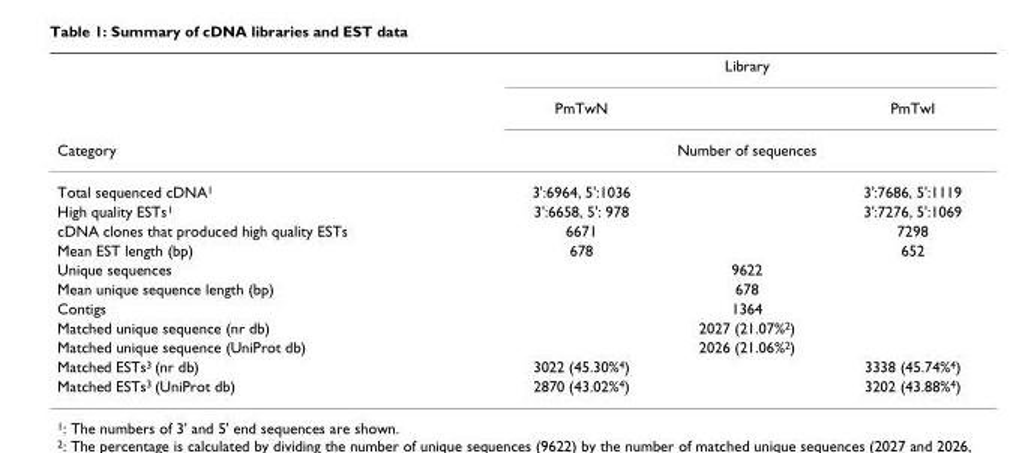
<table><thead><tr><td rowspan="3">Category</td><td colspan="3">Library</td></tr><tr><td>PmTwN</td><td></td><td>PmTwI</td></tr><tr><td colspan="3">Number of sequences</td></tr></thead><tbody><tr><td>Total sequenced cDNA1</td><td>3&#x27;:6964, 5&#x27;:1036</td><td></td><td>3&#x27;:7686, 5&#x27;:1119</td></tr><tr><td>High quality ESTs1</td><td>3&#x27;:6658, 5&#x27;: 978</td><td></td><td>3&#x27;:7276, 5&#x27;:1069</td></tr><tr><td>cDNA clones that produced high quality ESTs</td><td>6671</td><td></td><td>7298</td></tr><tr><td>Mean EST length (bp)</td><td>678</td><td></td><td>652</td></tr><tr><td>Unique sequences</td><td></td><td>9622</td><td></td></tr><tr><td>Mean unique sequence length (bp)</td><td></td><td>678</td><td></td></tr><tr><td>Contigs</td><td></td><td>1364</td><td></td></tr><tr><td>Matched unique sequence (nr db)</td><td></td><td>2027 (21.07%2)</td><td></td></tr><tr><td>Matched unique sequence (UniProt db)</td><td></td><td>2026 (21.06%2)</td><td></td></tr><tr><td>Matched ESTs3 (nr db)</td><td>3022 (45.30%4)</td><td></td><td>3338 (45.74%4)</td></tr><tr><td>Matched ESTs3 (UniProt db)</td><td>2870 (43.02%4)</td><td></td><td>3202 (43.88%4)</td></tr></tbody></table>